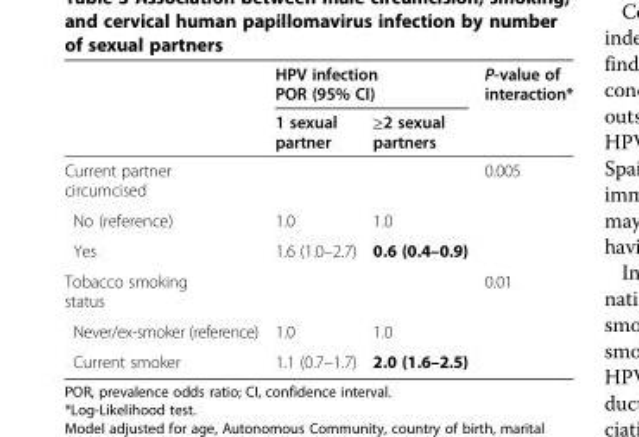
<table><thead><tr><td rowspan="2"></td><td colspan="2">HPV infection POR (95% CI)</td><td rowspan="2">P-value of interaction*</td></tr><tr><td>1 sexual partner</td><td>≥2 sexual partners</td></tr></thead><tbody><tr><td>Current partner circumcised</td><td></td><td></td><td>0.005</td></tr><tr><td>No (reference)</td><td>1.0</td><td>1.0</td><td></td></tr><tr><td>Yes</td><td>1.6 (1.0–2.7)</td><td>0.6 (0.4–0.9)</td><td></td></tr><tr><td>Tobacco smoking status</td><td></td><td></td><td>0.01</td></tr><tr><td>Never/ex-smoker (reference)</td><td>1.0</td><td>1.0</td><td></td></tr><tr><td>Current smoker</td><td>1.1 (0.7–1.7)</td><td>2.0 (1.6–2.5)</td><td></td></tr></tbody></table>